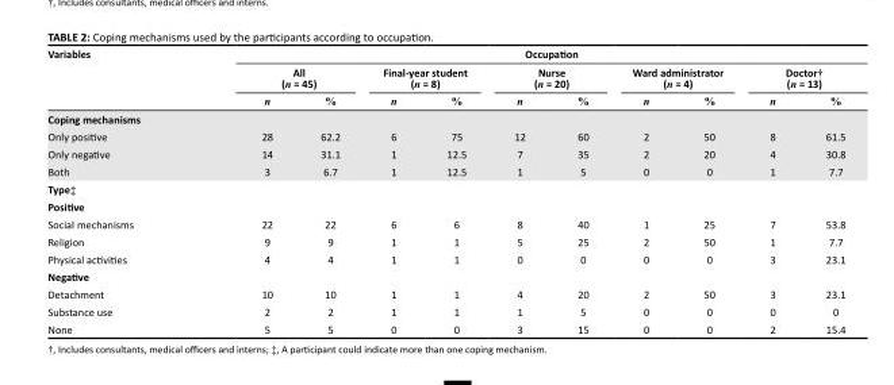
<table><thead><tr><td rowspan="3">Variables</td><td colspan="10">Occupation</td></tr><tr><td colspan="2">All (n = 45)</td><td colspan="2">Final-year student (n = 8)</td><td colspan="2">Nurse (n = 20)</td><td colspan="2">Ward administrator (n = 4)</td><td colspan="2">Doctor† (n = 13)</td></tr><tr><td>n</td><td>%</td><td>n</td><td>%</td><td>n</td><td>%</td><td>n</td><td>%</td><td>n</td><td>%</td></tr></thead><tbody><tr><td colspan="11">Coping mechanisms</td></tr><tr><td>Only positive</td><td>28</td><td>62.2</td><td>6</td><td>75</td><td>12</td><td>60</td><td>2</td><td>50</td><td>8</td><td>61.5</td></tr><tr><td>Only negative</td><td>14</td><td>31.1</td><td>1</td><td>12.5</td><td>7</td><td>35</td><td>2</td><td>20</td><td>4</td><td>30.8</td></tr><tr><td>Both</td><td>3</td><td>6.7</td><td>1</td><td>12.5</td><td>1</td><td>5</td><td>0</td><td>0</td><td>1</td><td>7.7</td></tr><tr><td colspan="11">Type‡</td></tr><tr><td colspan="11">Positive</td></tr><tr><td>Social mechanisms</td><td>22</td><td>22</td><td>6</td><td>6</td><td>8</td><td>40</td><td>1</td><td>25</td><td>7</td><td>53.8</td></tr><tr><td>Religion</td><td>9</td><td>9</td><td>1</td><td>1</td><td>5</td><td>25</td><td>2</td><td>50</td><td>1</td><td>7.7</td></tr><tr><td>Physical activities</td><td>4</td><td>4</td><td>1</td><td>1</td><td>0</td><td>0</td><td>0</td><td>0</td><td>3</td><td>23.1</td></tr><tr><td colspan="11">Negative</td></tr><tr><td>Detachment</td><td>10</td><td>10</td><td>1</td><td>1</td><td>4</td><td>20</td><td>2</td><td>50</td><td>3</td><td>23.1</td></tr><tr><td>Substance use</td><td>2</td><td>2</td><td>1</td><td>1</td><td>1</td><td>5</td><td>0</td><td>0</td><td>0</td><td>0</td></tr><tr><td>None</td><td>5</td><td>5</td><td>0</td><td>0</td><td>3</td><td>15</td><td>0</td><td>0</td><td>2</td><td>15.4</td></tr></tbody></table>